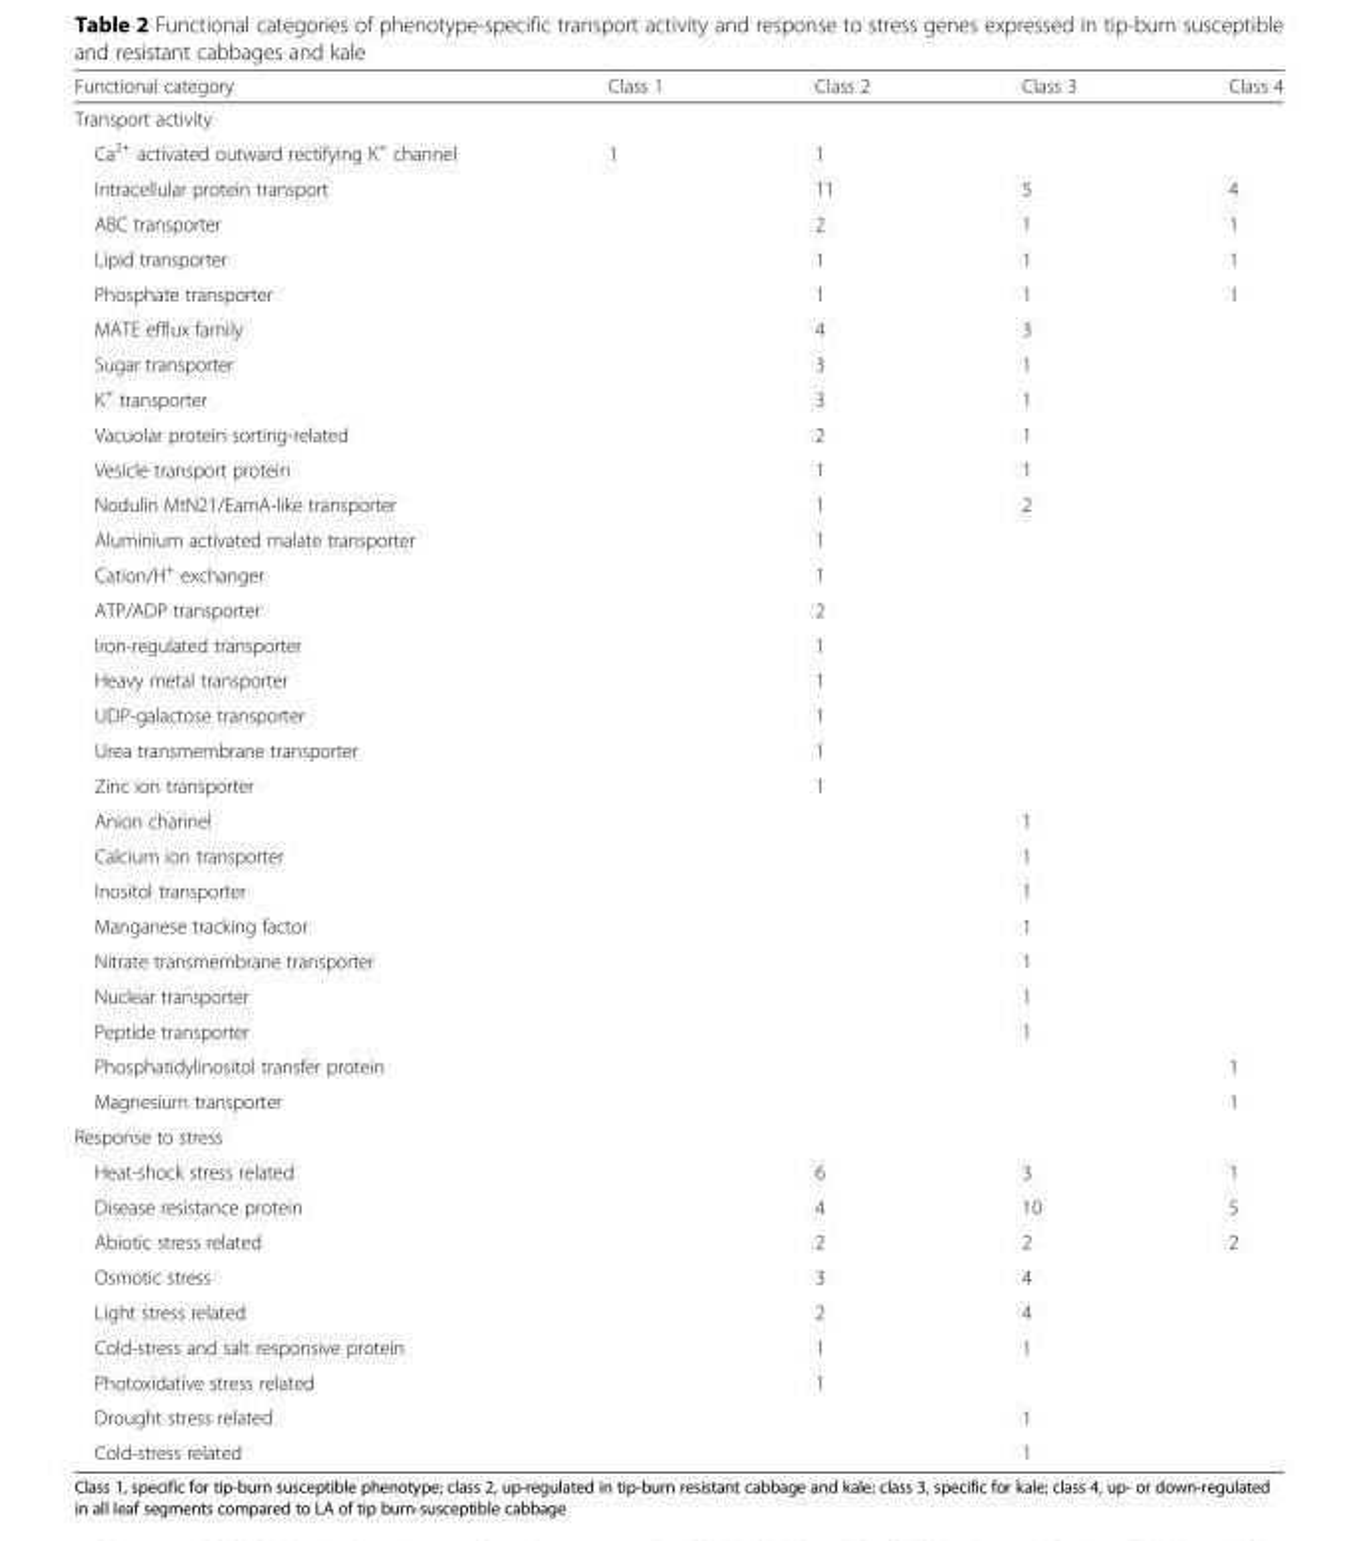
<table><thead><tr><td>Functional category</td><td>Class 1</td><td>Class 2</td><td>Class 3</td><td>Class 4</td></tr></thead><tbody><tr><td colspan="5">Transport activity</td></tr><tr><td>Ca<sup>2+</sup> activated outward rectifying K<sup>+</sup> channel</td><td>1</td><td>1</td><td></td><td></td></tr><tr><td>Intracellular protein transport</td><td></td><td>11</td><td>5</td><td>4</td></tr><tr><td>ABC transporter</td><td></td><td>2</td><td>1</td><td>1</td></tr><tr><td>Lipid transporter</td><td></td><td>1</td><td>1</td><td>1</td></tr><tr><td>Phosphate transporter</td><td></td><td>1</td><td>1</td><td>1</td></tr><tr><td>MATE efflux family</td><td></td><td>4</td><td>3</td><td></td></tr><tr><td>Sugar transporter</td><td></td><td>3</td><td>1</td><td></td></tr><tr><td>K<sup>+</sup> transporter</td><td></td><td>3</td><td>1</td><td></td></tr><tr><td>Vacuolar protein sorting-related</td><td></td><td>2</td><td>1</td><td></td></tr><tr><td>Vesicle transport protein</td><td></td><td>1</td><td>1</td><td></td></tr><tr><td>Nodulin MtN21/EamA-like transporter</td><td></td><td>1</td><td>2</td><td></td></tr><tr><td>Aluminium activated malate transporter</td><td></td><td>1</td><td></td><td></td></tr><tr><td>Cation/H<sup>+</sup> exchanger</td><td></td><td>1</td><td></td><td></td></tr><tr><td>ATP/ADP transporter</td><td></td><td>2</td><td></td><td></td></tr><tr><td>Iron-regulated transporter</td><td></td><td>1</td><td></td><td></td></tr><tr><td>Heavy metal transporter</td><td></td><td>1</td><td></td><td></td></tr><tr><td>UDP-galactose transporter</td><td></td><td>1</td><td></td><td></td></tr><tr><td>Urea transmembrane transporter</td><td></td><td>1</td><td></td><td></td></tr><tr><td>Zinc ion transporter</td><td></td><td>1</td><td></td><td></td></tr><tr><td>Anion channel</td><td></td><td></td><td>1</td><td></td></tr><tr><td>Calcium ion transporter</td><td></td><td></td><td>1</td><td></td></tr><tr><td>Inositol transporter</td><td></td><td></td><td>1</td><td></td></tr><tr><td>Manganese tracking factor</td><td></td><td></td><td>1</td><td></td></tr><tr><td>Nitrate transmembrane transporter</td><td></td><td></td><td>1</td><td></td></tr><tr><td>Nuclear transporter</td><td></td><td></td><td>1</td><td></td></tr><tr><td>Peptide transporter</td><td></td><td></td><td>1</td><td></td></tr><tr><td>Phosphatidylinositol transfer protein</td><td></td><td></td><td></td><td>1</td></tr><tr><td>Magnesium transporter</td><td></td><td></td><td></td><td>1</td></tr><tr><td colspan="5">Response to stress</td></tr><tr><td>Heat-shock stress related</td><td></td><td>6</td><td>3</td><td>1</td></tr><tr><td>Disease resistance protein</td><td></td><td>4</td><td>10</td><td>5</td></tr><tr><td>Abiotic stress related</td><td></td><td>2</td><td>2</td><td>2</td></tr><tr><td>Osmotic stress</td><td></td><td>3</td><td>4</td><td></td></tr><tr><td>Light stress related</td><td></td><td>2</td><td>4</td><td></td></tr><tr><td>Cold-stress and salt responsive protein</td><td></td><td>1</td><td>1</td><td></td></tr><tr><td>Photoxidative stress related</td><td></td><td>1</td><td></td><td></td></tr><tr><td>Drought stress related</td><td></td><td></td><td>1</td><td></td></tr><tr><td>Cold-stress related</td><td></td><td></td><td>1</td><td></td></tr></tbody></table>